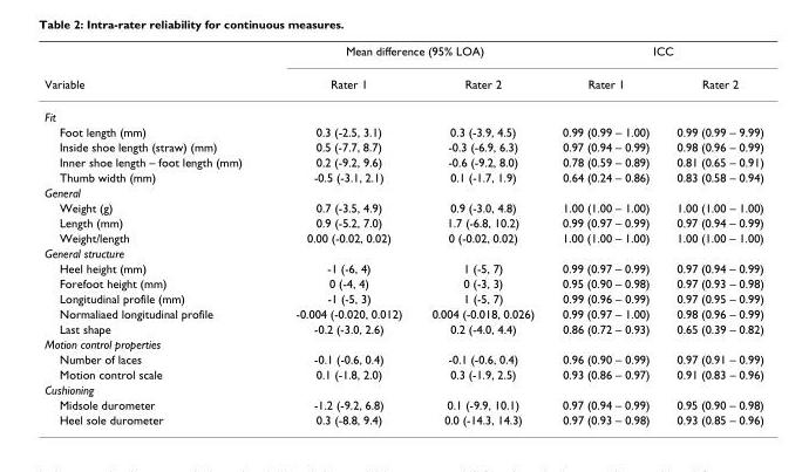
<table><thead><tr><td rowspan="2">Variable</td><td colspan="2">Mean difference (95% LOA)</td><td colspan="2">ICC</td></tr><tr><td>Rater 1</td><td>Rater 2</td><td>Rater 1</td><td>Rater 2</td></tr></thead><tbody><tr><td colspan="5">Fit</td></tr><tr><td>Foot length (mm)</td><td>0.3 (-2.5, 3.1)</td><td>0.3 (-3.9, 4.5)</td><td>0.99 (0.99 – 1.00)</td><td>0.99 (0.99 – 9.99)</td></tr><tr><td>Inside shoe length (straw) (mm)</td><td>0.5 (-7.7, 8.7)</td><td>-0.3 (-6.9, 6.3)</td><td>0.97 (0.94 – 0.99)</td><td>0.98 (0.96 – 0.99)</td></tr><tr><td>Inner shoe length – foot length (mm)</td><td>0.2 (-9.2, 9.6)</td><td>-0.6 (-9.2, 8.0)</td><td>0.78 (0.59 – 0.89)</td><td>0.81 (0.65 – 0.91)</td></tr><tr><td>Thumb width (mm)</td><td>-0.5 (-3.1, 2.1)</td><td>0.1 (-1.7, 1.9)</td><td>0.64 (0.24 – 0.86)</td><td>0.83 (0.58 – 0.94)</td></tr><tr><td colspan="5">General</td></tr><tr><td>Weight (g)</td><td>0.7 (-3.5, 4.9)</td><td>0.9 (-3.0, 4.8)</td><td>1.00 (1.00 – 1.00)</td><td>1.00 (1.00 – 1.00)</td></tr><tr><td>Length (mm)</td><td>0.9 (-5.2, 7.0)</td><td>1.7 (-6.8, 10.2)</td><td>0.99 (0.97 – 0.99)</td><td>0.97 (0.94 – 0.99)</td></tr><tr><td>Weight/length</td><td>0.00 (-0.02, 0.02)</td><td>0 (-0.02, 0.02)</td><td>1.00 (1.00 – 1.00)</td><td>1.00 (1.00 – 1.00)</td></tr><tr><td colspan="5">General structure</td></tr><tr><td>Heel height (mm)</td><td>-1 (-6, 4)</td><td>1 (-5, 7)</td><td>0.99 (0.97 – 0.99)</td><td>0.97 (0.94 – 0.99)</td></tr><tr><td>Forefoot height (mm)</td><td>0 (-4, 4)</td><td>0 (-3, 3)</td><td>0.95 (0.90 – 0.98)</td><td>0.97 (0.93 – 0.98)</td></tr><tr><td>Longitudinal profile (mm)</td><td>-1 (-5, 3)</td><td>1 (-5, 7)</td><td>0.99 (0.96 – 0.99)</td><td>0.97 (0.95 – 0.99)</td></tr><tr><td>Normaliaed longitudinal profile</td><td>-0.004 (-0.020, 0.012)</td><td>0.004 (-0.018, 0.026)</td><td>0.99 (0.97 – 1.00)</td><td>0.98 (0.96 – 0.99)</td></tr><tr><td>Last shape</td><td>-0.2 (-3.0, 2.6)</td><td>0.2 (-4.0, 4.4)</td><td>0.86 (0.72 – 0.93)</td><td>0.65 (0.39 – 0.82)</td></tr><tr><td colspan="5">Motion control properties</td></tr><tr><td>Number of laces</td><td>-0.1 (-0.6, 0.4)</td><td>-0.1 (-0.6, 0.4)</td><td>0.96 (0.90 – 0.99)</td><td>0.97 (0.91 – 0.99)</td></tr><tr><td>Motion control scale</td><td>0.1 (-1.8, 2.0)</td><td>0.3 (-1.9, 2.5)</td><td>0.93 (0.86 – 0.97)</td><td>0.91 (0.83 – 0.96)</td></tr><tr><td colspan="5">Cushioning</td></tr><tr><td>Midsole durometer</td><td>-1.2 (-9.2, 6.8)</td><td>0.1 (-9.9, 10.1)</td><td>0.97 (0.94 – 0.99)</td><td>0.95 (0.90 – 0.98)</td></tr><tr><td>Heel sole durometer</td><td>0.3 (-8.8, 9.4)</td><td>0.0 (-14.3, 14.3)</td><td>0.97 (0.93 – 0.98)</td><td>0.93 (0.85 – 0.96)</td></tr></tbody></table>